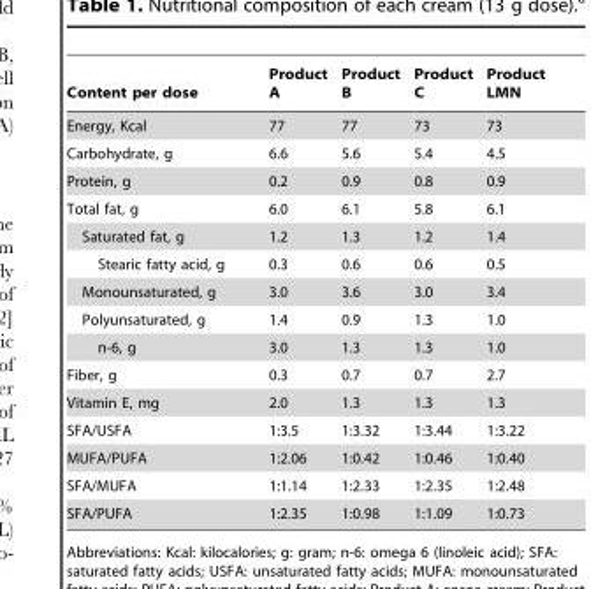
<table><thead><tr><td>Content per dose</td><td>Product A</td><td>Product B</td><td>Product C</td><td>Product LMN</td></tr></thead><tbody><tr><td>Energy, Kcal</td><td>77</td><td>77</td><td>73</td><td>73</td></tr><tr><td>Carbohydrate, g</td><td>6.6</td><td>5.6</td><td>5.4</td><td>4.5</td></tr><tr><td>Protein, g</td><td>0.2</td><td>0.9</td><td>0.8</td><td>0.9</td></tr><tr><td>Total fat, g</td><td>6.0</td><td>6.1</td><td>5.8</td><td>6.1</td></tr><tr><td>Saturated fat, g</td><td>1.2</td><td>1.3</td><td>1.2</td><td>1.4</td></tr><tr><td>Stearic fatty acid, g</td><td>0.3</td><td>0.6</td><td>0.6</td><td>0.5</td></tr><tr><td>Monounsaturated, g</td><td>3.0</td><td>3.6</td><td>3.0</td><td>3.4</td></tr><tr><td>Polyunsaturated, g</td><td>1.4</td><td>0.9</td><td>1.3</td><td>1.0</td></tr><tr><td>n-6, g</td><td>3.0</td><td>1.3</td><td>1.3</td><td>1.0</td></tr><tr><td>Fiber, g</td><td>0.3</td><td>0.7</td><td>0.7</td><td>2.7</td></tr><tr><td>Vitamin E, mg</td><td>2.0</td><td>1.3</td><td>1.3</td><td>1.3</td></tr><tr><td>SFA/USFA</td><td>1:3.5</td><td>1:3.32</td><td>1:3.44</td><td>1:3.22</td></tr><tr><td>MUFA/PUFA</td><td>1:2.06</td><td>1:0.42</td><td>1:0.46</td><td>1:0.40</td></tr><tr><td>SFA/MUFA</td><td>1:1.14</td><td>1:2.33</td><td>1:2.35</td><td>1:2.48</td></tr><tr><td>SFA/PUFA</td><td>1:2.35</td><td>1:0.98</td><td>1:1.09</td><td>1:0.73</td></tr></tbody></table>